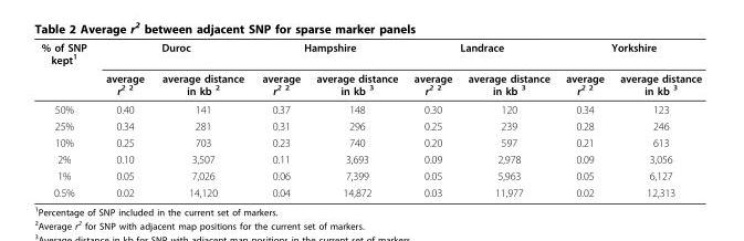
<table><thead><tr><td rowspan="2">% of SNP kept<sup>1</sup></td><td colspan="2">Duroc</td><td colspan="2">Hampshire</td><td colspan="2">Landrace</td><td colspan="2">Yorkshire</td></tr><tr><td>average r<sup>2 2</sup></td><td>average distance in kb <sup>2</sup></td><td>average r<sup>2 2</sup></td><td>average distance in kb <sup>3</sup></td><td>average r<sup>2 2</sup></td><td>average distance in kb <sup>3</sup></td><td>average r<sup>2 2</sup></td><td>average distance in kb <sup>3</sup></td></tr></thead><tbody><tr><td>50%</td><td>0.40</td><td>141</td><td>0.37</td><td>148</td><td>0.30</td><td>120</td><td>0.34</td><td>123</td></tr><tr><td>25%</td><td>0.34</td><td>281</td><td>0.31</td><td>296</td><td>0.25</td><td>239</td><td>0.28</td><td>246</td></tr><tr><td>10%</td><td>0.25</td><td>703</td><td>0.23</td><td>740</td><td>0.20</td><td>597</td><td>0.21</td><td>613</td></tr><tr><td>2%</td><td>0.10</td><td>3,507</td><td>0.11</td><td>3,693</td><td>0.09</td><td>2,978</td><td>0.09</td><td>3,056</td></tr><tr><td>1%</td><td>0.05</td><td>7,026</td><td>0.06</td><td>7,399</td><td>0.05</td><td>5,963</td><td>0.05</td><td>6,127</td></tr><tr><td>0.5%</td><td>0.02</td><td>14,120</td><td>0.04</td><td>14,872</td><td>0.03</td><td>11,977</td><td>0.02</td><td>12,313</td></tr></tbody></table>